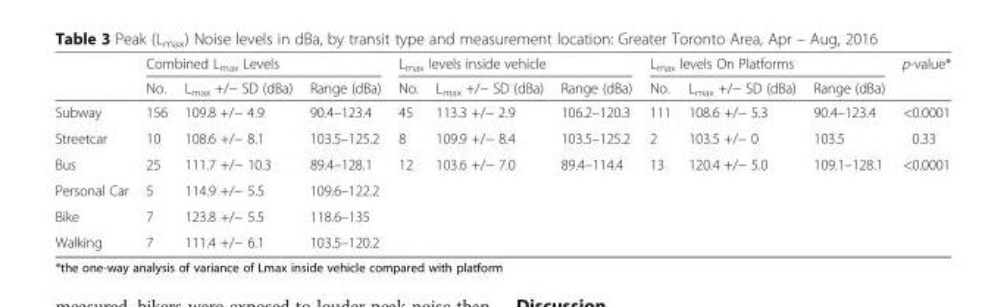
<table><thead><tr><td rowspan="2"></td><td colspan="3">Combined L<sub>max</sub> Levels</td><td colspan="3">L<sub>max</sub> levels inside vehicle</td><td colspan="3">L<sub>max</sub> levels On Platforms</td><td rowspan="2">p-value*</td></tr><tr><td>No.</td><td>L<sub>max</sub> +/− SD (dBa)</td><td>Range (dBa)</td><td>No.</td><td>L<sub>max</sub> +/− SD (dBa)</td><td>Range (dBa)</td><td>No.</td><td>L<sub>max</sub> +/− SD (dBa)</td><td>Range (dBa)</td></tr></thead><tbody><tr><td>Subway</td><td>156</td><td>109.8 +/− 4.9</td><td>90.4–123.4</td><td>45</td><td>113.3 +/− 2.9</td><td>106.2–120.3</td><td>111</td><td>108.6 +/− 5.3</td><td>90.4–123.4</td><td>&lt;0.0001</td></tr><tr><td>Streetcar</td><td>10</td><td>108.6 +/− 8.1</td><td>103.5–125.2</td><td>8</td><td>109.9 +/− 8.4</td><td>103.5–125.2</td><td>2</td><td>103.5 +/− 0</td><td>103.5</td><td>0.33</td></tr><tr><td>Bus</td><td>25</td><td>111.7 +/− 10.3</td><td>89.4–128.1</td><td>12</td><td>103.6 +/− 7.0</td><td>89.4–114.4</td><td>13</td><td>120.4 +/− 5.0</td><td>109.1–128.1</td><td>&lt;0.0001</td></tr><tr><td>Personal Car</td><td>5</td><td>114.9 +/− 5.5</td><td>109.6–122.2</td><td></td><td></td><td></td><td></td><td></td><td></td><td></td></tr><tr><td>Bike</td><td>7</td><td>123.8 +/− 5.5</td><td>118.6–135</td><td></td><td></td><td></td><td></td><td></td><td></td><td></td></tr><tr><td>Walking</td><td>7</td><td>111.4 +/− 6.1</td><td>103.5–120.2</td><td></td><td></td><td></td><td></td><td></td><td></td><td></td></tr></tbody></table>